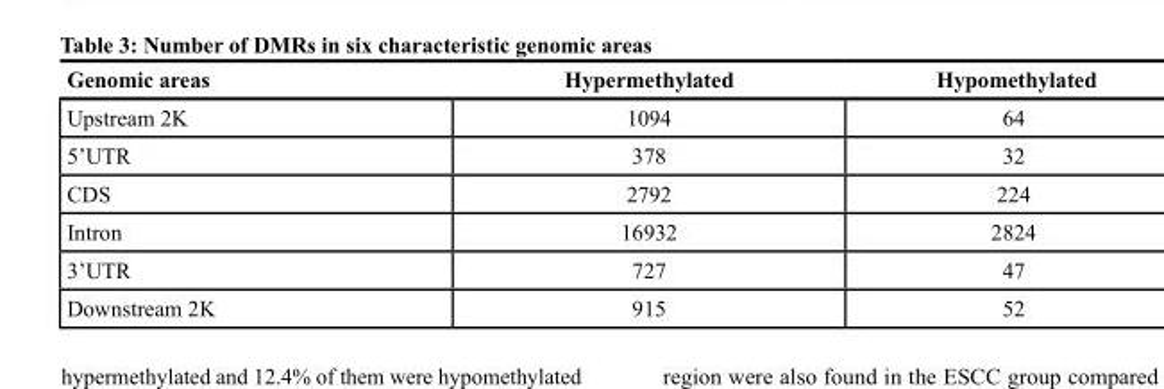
<table><thead><tr><td>Genomic areas</td><td>Hypermethylated</td><td>Hypomethylated</td></tr></thead><tbody><tr><td>Upstream 2K</td><td>1094</td><td>64</td></tr><tr><td>5’UTR</td><td>378</td><td>32</td></tr><tr><td>CDS</td><td>2792</td><td>224</td></tr><tr><td>Intron</td><td>16932</td><td>2824</td></tr><tr><td>3’UTR</td><td>727</td><td>47</td></tr><tr><td>Downstream 2K</td><td>915</td><td>52</td></tr></tbody></table>